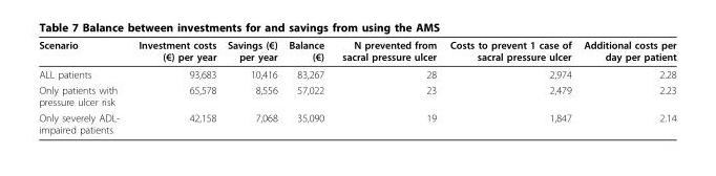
<table><thead><tr><td>Scenario</td><td>Investment costs (€) per year</td><td>Savings (€) per year</td><td>Balance (€)</td><td>N prevented from sacral pressure ulcer</td><td>Costs to prevent 1 case of sacral pressure ulcer</td><td>Additional costs per day per patient</td></tr></thead><tbody><tr><td>ALL patients</td><td>93,683</td><td>10,416</td><td>83,267</td><td>28</td><td>2,974</td><td>2.28</td></tr><tr><td>Only patients with pressure ulcer risk</td><td>65,578</td><td>8,556</td><td>57,022</td><td>23</td><td>2,479</td><td>2.23</td></tr><tr><td>Only severely ADL- impaired patients</td><td>42,158</td><td>7,068</td><td>35,090</td><td>19</td><td>1,847</td><td>2.14</td></tr></tbody></table>